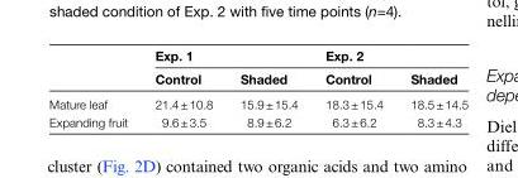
<table><thead><tr><td rowspan="2"></td><td colspan="2">Exp. 1</td><td colspan="2">Exp. 2</td></tr><tr><td>Control</td><td>Shaded</td><td>Control</td><td>Shaded</td></tr></thead><tbody><tr><td>Mature leaf</td><td>21.4 ± 10.8</td><td>15.9 ± 15.4</td><td>18.3 ± 15.4</td><td>18.5 ± 14.5</td></tr><tr><td>Expanding fruit</td><td>9.6 ± 3.5</td><td>8.9 ± 6.2</td><td>6.3 ± 6.2</td><td>8.3 ± 4.3</td></tr></tbody></table>